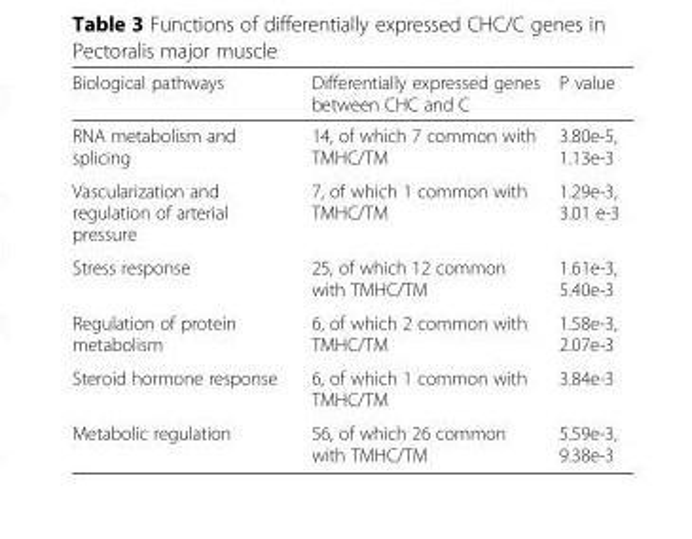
<table><thead><tr><td>Biological pathways</td><td>Differentially expressed genes between CHC and C</td><td>P value</td></tr></thead><tbody><tr><td>RNA metabolism and splicing</td><td>14, of which 7 common with TMHC/TM</td><td>3.80e-5, 1.13e-3</td></tr><tr><td>Vascularization and regulation of arterial pressure</td><td>7, of which 1 common with TMHC/TM</td><td>1.29e-3, 3.01 e-3</td></tr><tr><td>Stress response</td><td>25, of which 12 common with TMHC/TM</td><td>1.61e-3, 5.40e-3</td></tr><tr><td>Regulation of protein metabolism</td><td>6, of which 2 common with TMHC/TM</td><td>1.58e-3, 2.07e-3</td></tr><tr><td>Steroid hormone response</td><td>6, of which 1 common with TMHC/TM</td><td>3.84e-3</td></tr><tr><td>Metabolic regulation</td><td>56, of which 26 common with TMHC/TM</td><td>5.59e-3, 9.38e-3</td></tr></tbody></table>